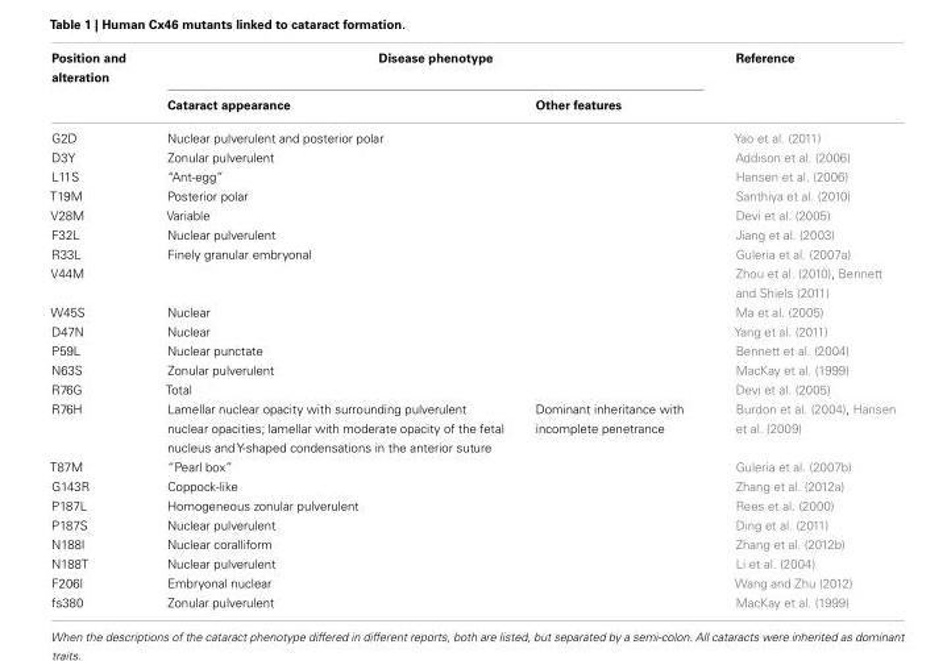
<table><thead><tr><td rowspan="2">Position and alteration</td><td colspan="2">Disease phenotype</td><td rowspan="2">Reference</td></tr><tr><td>Cataract appearance</td><td>Other features</td></tr></thead><tbody><tr><td>G2D</td><td>Nuclear pulverulent and posterior polar</td><td></td><td>Yao et al. (2011)</td></tr><tr><td>D3Y</td><td>Zonular pulverulent</td><td></td><td>Addison et al. (2006)</td></tr><tr><td>L11S</td><td>“Ant-egg”</td><td></td><td>Hansen et al. (2006)</td></tr><tr><td>T19M</td><td>Posterior polar</td><td></td><td>Santhiya et al. (2010)</td></tr><tr><td>V28M</td><td>Variable</td><td></td><td>Devi et al. (2005)</td></tr><tr><td>F32L</td><td>Nuclear pulverulent</td><td></td><td>Jiang et al. (2003)</td></tr><tr><td>R33L</td><td>Finely granular embryonal</td><td></td><td>Guleria et al. (2007a)</td></tr><tr><td>V44M</td><td></td><td></td><td>Zhou et al. (2010), Bennett and Shiels (2011)</td></tr><tr><td>W45S</td><td>Nuclear</td><td></td><td>Ma et al. (2005)</td></tr><tr><td>D47N</td><td>Nuclear</td><td></td><td>Yang et al. (2011)</td></tr><tr><td>P59L</td><td>Nuclear punctate</td><td></td><td>Bennett et al. (2004)</td></tr><tr><td>N63S</td><td>Zonular pulverulent</td><td></td><td>MacKay et al. (1999)</td></tr><tr><td>R76G</td><td>Total</td><td></td><td>Devi et al. (2005)</td></tr><tr><td>R76H</td><td>Lamellar nuclear opacity with surrounding pulverulent nuclear opacities; lamellar with moderate opacity of the fetal nucleus and Y-shaped condensations in the anterior suture</td><td>Dominant inheritance with incomplete penetrance</td><td>Burdon et al. (2004), Hansen et al. (2009)</td></tr><tr><td>T87M</td><td>“Pearl box”</td><td></td><td>Guleria et al. (2007b)</td></tr><tr><td>G143R</td><td>Coppock-like</td><td></td><td>Zhang et al. (2012a)</td></tr><tr><td>P187L</td><td>Homogeneous zonular pulverulent</td><td></td><td>Rees et al. (2000)</td></tr><tr><td>P187S</td><td>Nuclear pulverulent</td><td></td><td>Ding et al. (2011)</td></tr><tr><td>N188I</td><td>Nuclear coralliform</td><td></td><td>Zhang et al. (2012b)</td></tr><tr><td>N188T</td><td>Nuclear pulverulent</td><td></td><td>Li et al. (2004)</td></tr><tr><td>F206I</td><td>Embryonal nuclear</td><td></td><td>Wang and Zhu (2012)</td></tr><tr><td>fs380</td><td>Zonular pulverulent</td><td></td><td>MacKay et al. (1999)</td></tr></tbody></table>